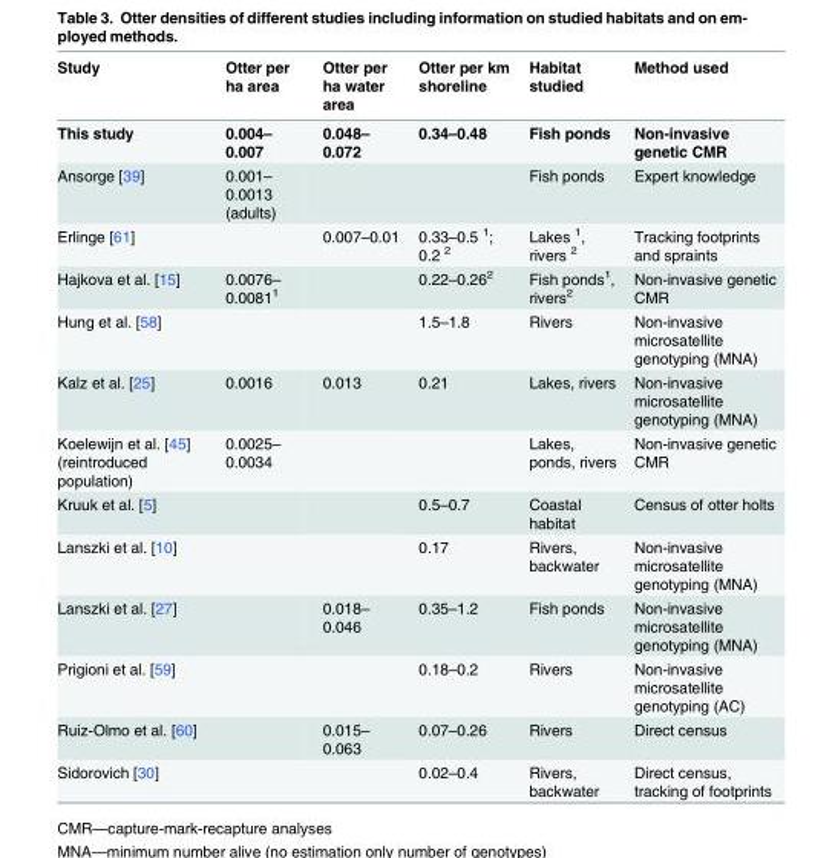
<table><thead><tr><td>Study</td><td>Otter per ha area</td><td>Otter per ha water area</td><td>Otter per km shoreline</td><td>Habitat studied</td><td>Method used</td></tr></thead><tbody><tr><td>This study</td><td>0.004– 0.007</td><td>0.048– 0.072</td><td>0.34–0.48</td><td>Fish ponds</td><td>Non-invasive genetic CMR</td></tr><tr><td>Ansorge [39]</td><td>0.001– 0.0013 (adults)</td><td></td><td></td><td>Fish ponds</td><td>Expert knowledge</td></tr><tr><td>Erlinge [61]</td><td></td><td>0.007–0.01</td><td>0.33–0.5 <sup>1</sup>; 0.2 <sup>2</sup></td><td>Lakes <sup>1</sup>, rivers <sup>2</sup></td><td>Tracking footprints and spraints</td></tr><tr><td>Hajkova et al. [15]</td><td>0.0076– 0.0081<sup>1</sup></td><td></td><td>0.22–0.26<sup>2</sup></td><td>Fish ponds<sup>1</sup>, rivers<sup>2</sup></td><td>Non-invasive genetic CMR</td></tr><tr><td>Hung et al. [58]</td><td></td><td></td><td>1.5–1.8</td><td>Rivers</td><td>Non-invasive microsatellite genotyping (MNA)</td></tr><tr><td>Kalz et al. [25]</td><td>0.0016</td><td>0.013</td><td>0.21</td><td>Lakes, rivers</td><td>Non-invasive microsatellite genotyping (MNA)</td></tr><tr><td>Koelewijn et al. [45] (reintroduced population)</td><td>0.0025– 0.0034</td><td></td><td></td><td>Lakes, ponds, rivers</td><td>Non-invasive genetic CMR</td></tr><tr><td>Kruuk et al. [5]</td><td></td><td></td><td>0.5–0.7</td><td>Coastal habitat</td><td>Census of otter holts</td></tr><tr><td>Lanszki et al. [10]</td><td></td><td></td><td>0.17</td><td>Rivers, backwater</td><td>Non-invasive microsatellite genotyping (MNA)</td></tr><tr><td>Lanszki et al. [27]</td><td></td><td>0.018– 0.046</td><td>0.35–1.2</td><td>Fish ponds</td><td>Non-invasive microsatellite genotyping (MNA)</td></tr><tr><td>Prigioni et al. [59]</td><td></td><td></td><td>0.18–0.2</td><td>Rivers</td><td>Non-invasive microsatellite genotyping (AC)</td></tr><tr><td>Ruiz-Olmo et al. [60]</td><td></td><td>0.015– 0.063</td><td>0.07–0.26</td><td>Rivers</td><td>Direct census</td></tr><tr><td>Sidorovich [30]</td><td></td><td></td><td>0.02–0.4</td><td>Rivers, backwater</td><td>Direct census, tracking of footprints</td></tr></tbody></table>